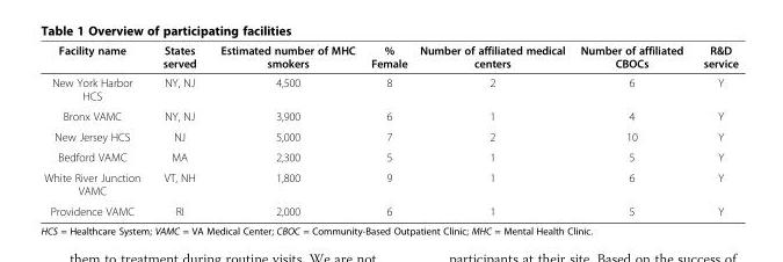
<table><thead><tr><td>Facility name</td><td>States served</td><td>Estimated number of MHC smokers</td><td>% Female</td><td>Number of affiliated medical centers</td><td>Number of affiliated CBOCs</td><td>R&amp;D service</td></tr></thead><tbody><tr><td>New York Harbor HCS</td><td>NY, NJ</td><td>4,500</td><td>8</td><td>2</td><td>6</td><td>Y</td></tr><tr><td>Bronx VAMC</td><td>NY, NJ</td><td>3,900</td><td>6</td><td>1</td><td>4</td><td>Y</td></tr><tr><td>New Jersey HCS</td><td>NJ</td><td>5,000</td><td>7</td><td>2</td><td>10</td><td>Y</td></tr><tr><td>Bedford VAMC</td><td>MA</td><td>2,300</td><td>5</td><td>1</td><td>5</td><td>Y</td></tr><tr><td>White River Junction VAMC</td><td>VT, NH</td><td>1,800</td><td>9</td><td>1</td><td>6</td><td>Y</td></tr><tr><td>Providence VAMC</td><td>RI</td><td>2,000</td><td>6</td><td>1</td><td>5</td><td>Y</td></tr></tbody></table>